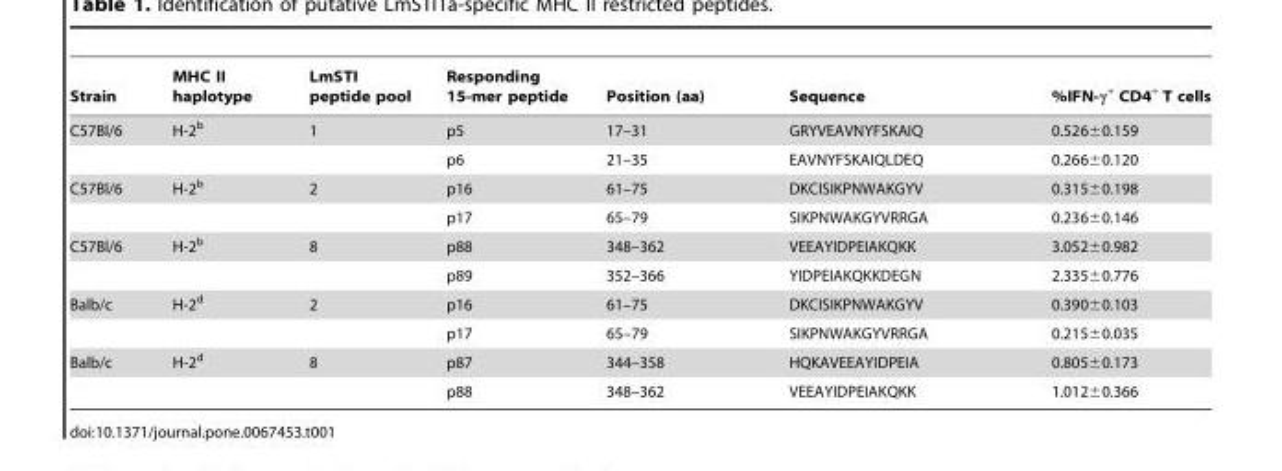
<table><thead><tr><td>Strain</td><td>MHC II haplotype</td><td>LmSTI peptide pool</td><td>Responding 15-mer peptide</td><td>Position (aa)</td><td>Sequence</td><td>%IFN-γ<sup>+</sup> CD4<sup>+</sup> T cells</td></tr></thead><tbody><tr><td rowspan="2">C57Bl/6</td><td>H-2<sup>b</sup></td><td>1</td><td>p5</td><td>17–31</td><td>GRYVEAVNYFSKAIQ</td><td>0.526±0.159</td></tr><tr><td></td><td></td><td>p6</td><td>21–35</td><td>EAVNYFSKAIQLDEQ</td><td>0.266±0.120</td></tr><tr><td rowspan="2">C57Bl/6</td><td>H-2<sup>b</sup></td><td>2</td><td>p16</td><td>61–75</td><td>DKCISIKPNWAKGYV</td><td>0.315±0.198</td></tr><tr><td></td><td></td><td>p17</td><td>65–79</td><td>SIKPNWAKGYVRRGA</td><td>0.236±0.146</td></tr><tr><td rowspan="2">C57Bl/6</td><td>H-2<sup>b</sup></td><td>8</td><td>p88</td><td>348–362</td><td>VEEAYIDPEIAKQKK</td><td>3.052±0.982</td></tr><tr><td></td><td></td><td>p89</td><td>352–366</td><td>YIDPEIAKQKKDEGN</td><td>2.335±0.776</td></tr><tr><td rowspan="2">Balb/c</td><td>H-2<sup>d</sup></td><td>2</td><td>p16</td><td>61–75</td><td>DKCISIKPNWAKGYV</td><td>0.390±0.103</td></tr><tr><td></td><td></td><td>p17</td><td>65–79</td><td>SIKPNWAKGYVRRGA</td><td>0.215±0.035</td></tr><tr><td rowspan="2">Balb/c</td><td>H-2<sup>d</sup></td><td>8</td><td>p87</td><td>344–358</td><td>HQKAVEEAYIDPEIA</td><td>0.805±0.173</td></tr><tr><td></td><td></td><td>p88</td><td>348–362</td><td>VEEAYIDPEIAKQKK</td><td>1.012±0.366</td></tr></tbody></table>